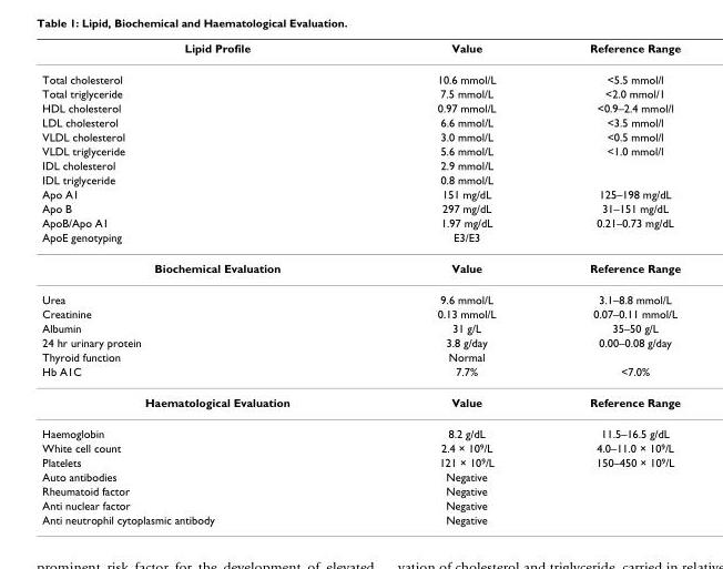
<table><thead><tr><td>Lipid Profile</td><td>Value</td><td>Reference Range</td></tr></thead><tbody><tr><td>Total cholesterol</td><td>10.6 mmol/L</td><td>&lt;5.5 mmol/l</td></tr><tr><td>Total triglyceride</td><td>7.5 mmol/L</td><td>&lt;2.0 mmol/1</td></tr><tr><td>HDL cholesterol</td><td>0.97 mmol/L</td><td>&lt;0.9–2.4 mmol/l</td></tr><tr><td>LDL cholesterol</td><td>6.6 mmol/L</td><td>&lt;3.5 mmol/l</td></tr><tr><td>VLDL cholesterol</td><td>3.0 mmol/L</td><td>&lt;0.5 mmol/l</td></tr><tr><td>VLDL triglyceride</td><td>5.6 mmol/L</td><td>&lt;1.0 mmol/l</td></tr><tr><td>IDL cholesterol</td><td>2.9 mmol/L</td><td></td></tr><tr><td>IDL triglyceride</td><td>0.8 mmol/L</td><td></td></tr><tr><td>Apo A1</td><td>151 mg/dL</td><td>125–198 mg/dL</td></tr><tr><td>Apo B</td><td>297 mg/dL</td><td>31–151 mg/dL</td></tr><tr><td>ApoB/Apo A1</td><td>1.97 mg/dL</td><td>0.21–0.73 mg/dL</td></tr><tr><td>ApoE genotyping</td><td>E3/E3</td><td></td></tr><tr><td>Biochemical Evaluation</td><td>Value</td><td>Reference Range</td></tr><tr><td>Urea</td><td>9.6 mmol/L</td><td>3.1–8.8 mmol/L</td></tr><tr><td>Creatinine</td><td>0.13 mmol/L</td><td>0.07–0.11 mmol/L</td></tr><tr><td>Albumin</td><td>31 g/L</td><td>35–50 g/L</td></tr><tr><td>24 hr urinary protein</td><td>3.8 g/day</td><td>0.00–0.08 g/day</td></tr><tr><td>Thyroid function</td><td>Normal</td><td></td></tr><tr><td>Hb A1C</td><td>7.7%</td><td>&lt;7.0%</td></tr><tr><td>Haematological Evaluation</td><td>Value</td><td>Reference Range</td></tr><tr><td>Haemoglobin</td><td>8.2 g/dL</td><td>11.5–16.5 g/dL</td></tr><tr><td>White cell count</td><td>2.4 × 10<sup>9</sup>/L</td><td>4.0–11.0 × 10<sup>9</sup>/L</td></tr><tr><td>Platelets</td><td>121 × 10<sup>9</sup>/L</td><td>150–450 × 10<sup>9</sup>/L</td></tr><tr><td>Auto antibodies</td><td>Negative</td><td></td></tr><tr><td>Rheumatoid factor</td><td>Negative</td><td></td></tr><tr><td>Anti nuclear factor</td><td>Negative</td><td></td></tr><tr><td>Anti neutrophil cytoplasmic antibody</td><td>Negative</td><td></td></tr></tbody></table>